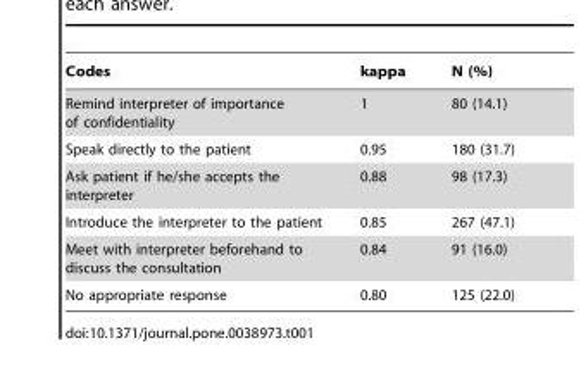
<table><thead><tr><td>Codes</td><td>kappa</td><td>N (%)</td></tr></thead><tbody><tr><td>Remind interpreter of importance of confidentiality</td><td>1</td><td>80 (14.1)</td></tr><tr><td>Speak directly to the patient</td><td>0.95</td><td>180 (31.7)</td></tr><tr><td>Ask patient if he/she accepts the interpreter</td><td>0.88</td><td>98 (17.3)</td></tr><tr><td>Introduce the interpreter to the patient</td><td>0.85</td><td>267 (47.1)</td></tr><tr><td>Meet with interpreter beforehand to discuss the consultation</td><td>0.84</td><td>91 (16.0)</td></tr><tr><td>No appropriate response</td><td>0.80</td><td>125 (22.0)</td></tr></tbody></table>